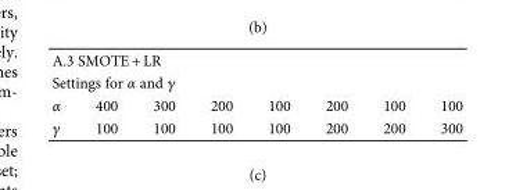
<table><tbody><tr><td colspan="8">A.3 SMOTE + LR</td></tr><tr><td colspan="8">Settings for α and γ</td></tr><tr><td>α</td><td>400</td><td>300</td><td>200</td><td>100</td><td>200</td><td>100</td><td>100</td></tr><tr><td>γ</td><td>100</td><td>100</td><td>100</td><td>100</td><td>200</td><td>200</td><td>300</td></tr></tbody></table>